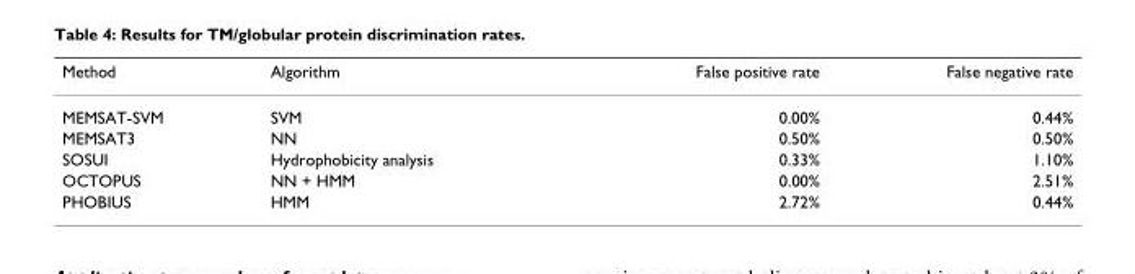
<table><thead><tr><td>Method</td><td>Algorithm</td><td>False positive rate</td><td>False negative rate</td></tr></thead><tbody><tr><td>MEMSAT-SVM</td><td>SVM</td><td>0.00%</td><td>0.44%</td></tr><tr><td>MEMSAT3</td><td>NN</td><td>0.50%</td><td>0.50%</td></tr><tr><td>SOSUI</td><td>Hydrophobicity analysis</td><td>0.33%</td><td>1.10%</td></tr><tr><td>OCTOPUS</td><td>NN + HMM</td><td>0.00%</td><td>2.51%</td></tr><tr><td>PHOBIUS</td><td>HMM</td><td>2.72%</td><td>0.44%</td></tr></tbody></table>